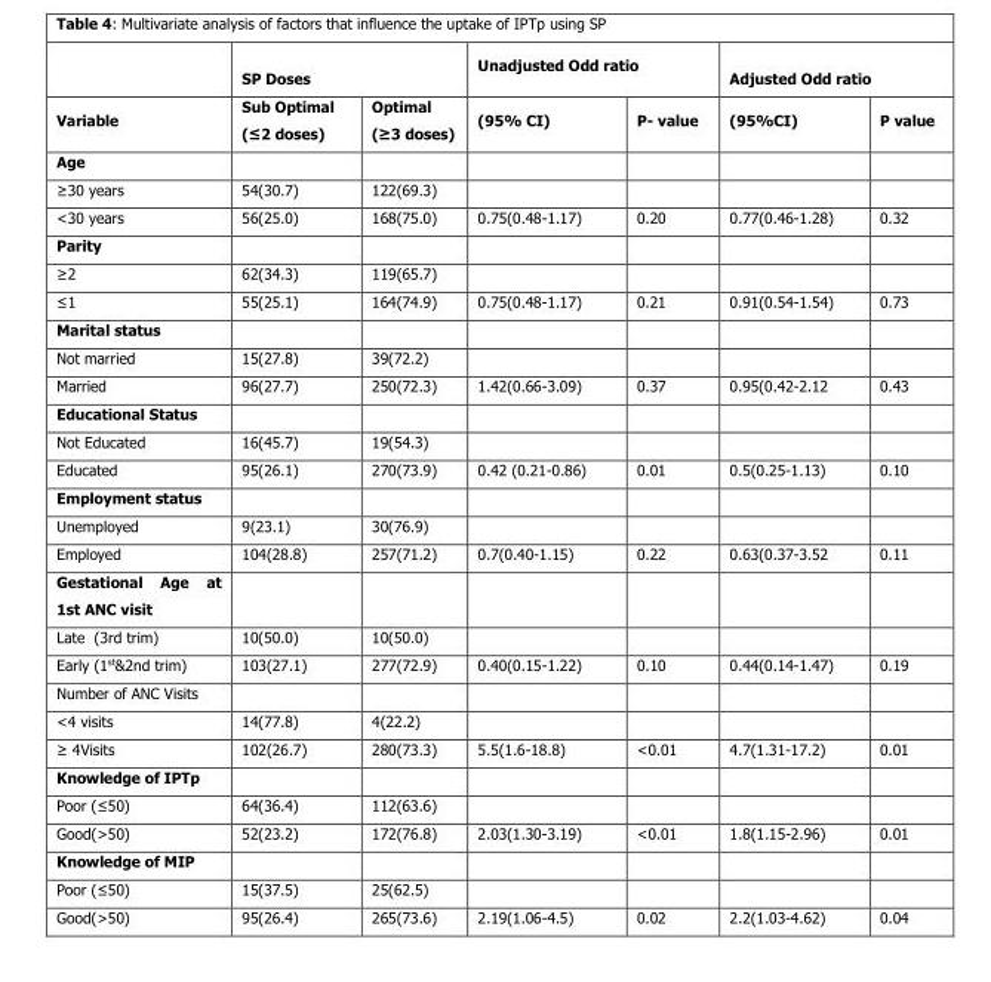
<table><thead><tr><td rowspan="2">Variable</td><td colspan="2">SP Doses</td><td colspan="2">Unadjusted Odd ratio</td><td colspan="2">Adjusted Odd ratio</td></tr><tr><td>Sub Optimal (≤2 doses)</td><td>Optimal (≥3 doses)</td><td>(95% CI)</td><td>P- value</td><td>(95%CI)</td><td>P value</td></tr></thead><tbody><tr><td colspan="7">Age</td></tr><tr><td>≥30 years</td><td>54(30.7)</td><td>122(69.3)</td><td></td><td></td><td></td><td></td></tr><tr><td>&lt;30 years</td><td>56(25.0)</td><td>168(75.0)</td><td>0.75(0.48-1.17)</td><td>0.20</td><td>0.77(0.46-1.28)</td><td>0.32</td></tr><tr><td colspan="7">Parity</td></tr><tr><td>≥2</td><td>62(34.3)</td><td>119(65.7)</td><td></td><td></td><td></td><td></td></tr><tr><td>≤1</td><td>55(25.1)</td><td>164(74.9)</td><td>0.75(0.48-1.17)</td><td>0.21</td><td>0.91(0.54-1.54)</td><td>0.73</td></tr><tr><td colspan="7">Marital status</td></tr><tr><td>Not married</td><td>15(27.8)</td><td>39(72.2)</td><td></td><td></td><td></td><td></td></tr><tr><td>Married</td><td>96(27.7)</td><td>250(72.3)</td><td>1.42(0.66-3.09)</td><td>0.37</td><td>0.95(0.42-2.12</td><td>0.43</td></tr><tr><td colspan="7">Educational Status</td></tr><tr><td>Not Educated</td><td>16(45.7)</td><td>19(54.3)</td><td></td><td></td><td></td><td></td></tr><tr><td>Educated</td><td>95(26.1)</td><td>270(73.9)</td><td>0.42 (0.21-0.86)</td><td>0.01</td><td>0.5(0.25-1.13)</td><td>0.10</td></tr><tr><td colspan="7">Employment status</td></tr><tr><td>Unemployed</td><td>9(23.1)</td><td>30(76.9)</td><td></td><td></td><td></td><td></td></tr><tr><td>Employed</td><td>104(28.8)</td><td>257(71.2)</td><td>0.7(0.40-1.15)</td><td>0.22</td><td>0.63(0.37-3.52</td><td>0.11</td></tr><tr><td colspan="7">Gestational Age at 1st ANC visit</td></tr><tr><td>Late (3rd trim)</td><td>10(50.0)</td><td>10(50.0)</td><td></td><td></td><td></td><td></td></tr><tr><td>Early (1<sup>st</sup>&amp;2nd trim)</td><td>103(27.1)</td><td>277(72.9)</td><td>0.40(0.15-1.22)</td><td>0.10</td><td>0.44(0.14-1.47)</td><td>0.19</td></tr><tr><td colspan="7">Number of ANC Visits</td></tr><tr><td>&lt;4 visits</td><td>14(77.8)</td><td>4(22.2)</td><td></td><td></td><td></td><td></td></tr><tr><td>≥ 4Visits</td><td>102(26.7)</td><td>280(73.3)</td><td>5.5(1.6-18.8)</td><td>&lt;0.01</td><td>4.7(1.31-17.2)</td><td>0.01</td></tr><tr><td colspan="7">Knowledge of IPTp</td></tr><tr><td>Poor (≤50)</td><td>64(36.4)</td><td>112(63.6)</td><td></td><td></td><td></td><td></td></tr><tr><td>Good(&gt;50)</td><td>52(23.2)</td><td>172(76.8)</td><td>2.03(1.30-3.19)</td><td>&lt;0.01</td><td>1.8(1.15-2.96)</td><td>0.01</td></tr><tr><td colspan="7">Knowledge of MIP</td></tr><tr><td>Poor (≤50)</td><td>15(37.5)</td><td>25(62.5)</td><td></td><td></td><td></td><td></td></tr><tr><td>Good(&gt;50)</td><td>95(26.4)</td><td>265(73.6)</td><td>2.19(1.06-4.5)</td><td>0.02</td><td>2.2(1.03-4.62)</td><td>0.04</td></tr></tbody></table>